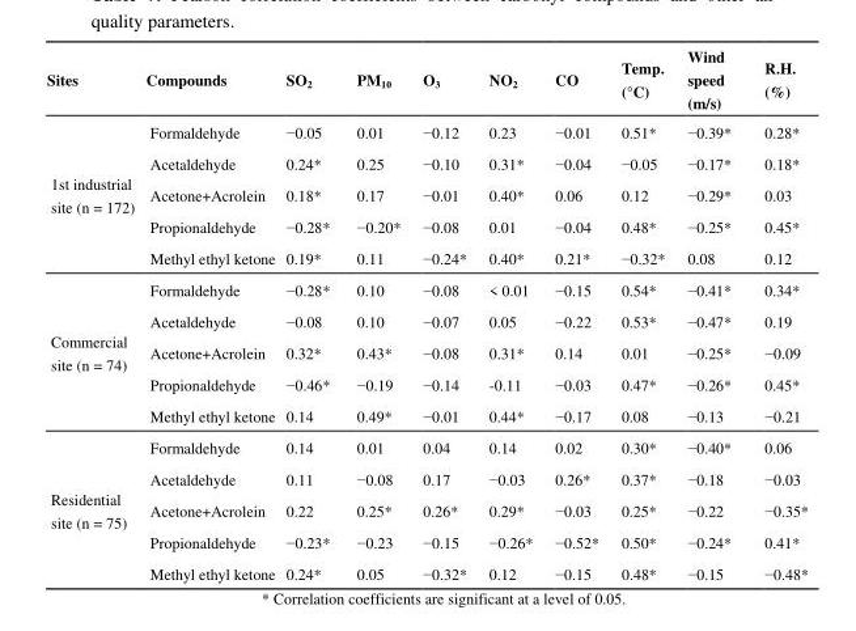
<table><thead><tr><td>Sites</td><td>Compounds</td><td>SO<sub>2</sub></td><td>PM<sub>10</sub></td><td>O<sub>3</sub></td><td>NO<sub>2</sub></td><td>CO</td><td>Temp. (°C)</td><td>Wind speed (m/s)</td><td>R.H. (%)</td></tr></thead><tbody><tr><td rowspan="5">1st industrial site (n = 172)</td><td>Formaldehyde</td><td>−0.05</td><td>0.01</td><td>−0.12</td><td>0.23</td><td>−0.01</td><td>0.51*</td><td>−0.39*</td><td>0.28*</td></tr><tr><td>Acetaldehyde</td><td>0.24*</td><td>0.25</td><td>−0.10</td><td>0.31*</td><td>−0.04</td><td>−0.05</td><td>−0.17*</td><td>0.18*</td></tr><tr><td>Acetone+Acrolein</td><td>0.18*</td><td>0.17</td><td>−0.01</td><td>0.40*</td><td>0.06</td><td>0.12</td><td>−0.29*</td><td>0.03</td></tr><tr><td>Propionaldehyde</td><td>−0.28*</td><td>−0.20*</td><td>−0.08</td><td>0.01</td><td>−0.04</td><td>0.48*</td><td>−0.25*</td><td>0.45*</td></tr><tr><td>Methyl ethyl ketone</td><td>0.19*</td><td>0.11</td><td>−0.24*</td><td>0.40*</td><td>0.21*</td><td>−0.32*</td><td>0.08</td><td>0.12</td></tr><tr><td rowspan="5">Commercial site (n = 74)</td><td>Formaldehyde</td><td>−0.28*</td><td>0.10</td><td>−0.08</td><td>&lt; 0.01</td><td>−0.15</td><td>0.54*</td><td>−0.41*</td><td>0.34*</td></tr><tr><td>Acetaldehyde</td><td>−0.08</td><td>0.10</td><td>−0.07</td><td>0.05</td><td>−0.22</td><td>0.53*</td><td>−0.47*</td><td>0.19</td></tr><tr><td>Acetone+Acrolein</td><td>0.32*</td><td>0.43*</td><td>−0.08</td><td>0.31*</td><td>0.14</td><td>0.01</td><td>−0.25*</td><td>−0.09</td></tr><tr><td>Propionaldehyde</td><td>−0.46*</td><td>−0.19</td><td>−0.14</td><td>-0.11</td><td>−0.03</td><td>0.47*</td><td>−0.26*</td><td>0.45*</td></tr><tr><td>Methyl ethyl ketone</td><td>0.14</td><td>0.49*</td><td>−0.01</td><td>0.44*</td><td>−0.17</td><td>0.08</td><td>−0.13</td><td>−0.21</td></tr><tr><td rowspan="5">Residential site (n = 75)</td><td>Formaldehyde</td><td>0.14</td><td>0.01</td><td>0.04</td><td>0.14</td><td>0.02</td><td>0.30*</td><td>−0.40*</td><td>0.06</td></tr><tr><td>Acetaldehyde</td><td>0.11</td><td>−0.08</td><td>0.17</td><td>−0.03</td><td>0.26*</td><td>0.37*</td><td>−0.18</td><td>−0.03</td></tr><tr><td>Acetone+Acrolein</td><td>0.22</td><td>0.25*</td><td>0.26*</td><td>0.29*</td><td>−0.03</td><td>0.25*</td><td>−0.22</td><td>−0.35*</td></tr><tr><td>Propionaldehyde</td><td>−0.23*</td><td>−0.23</td><td>−0.15</td><td>−0.26*</td><td>−0.52*</td><td>0.50*</td><td>−0.24*</td><td>0.41*</td></tr><tr><td>Methyl ethyl ketone</td><td>0.24*</td><td>0.05</td><td>−0.32*</td><td>0.12</td><td>−0.15</td><td>0.48*</td><td>−0.15</td><td>−0.48*</td></tr></tbody></table>